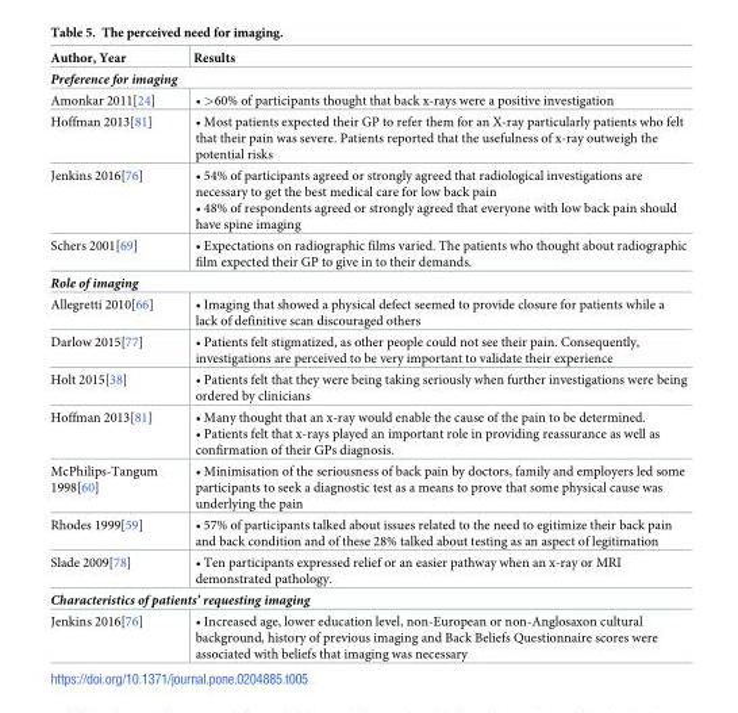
<table><thead><tr><td>Author, Year</td><td>Results</td></tr></thead><tbody><tr><td colspan="2">Preference for imaging</td></tr><tr><td>Amonkar 2011[24]</td><td>• &gt;60% of participants thought that back x-rays were a positive investigation</td></tr><tr><td>Hoffman 2013[81]</td><td>• Most patients expected their GP to refer them for an X-ray particularly patients who felt that their pain was severe. Patients reported that the usefulness of x-ray outweigh the potential risks</td></tr><tr><td>Jenkins 2016[76]</td><td>• 54% of participants agreed or strongly agreed that radiological investigations are necessary to get the best medical care for low back pain • 48% of respondents agreed or strongly agreed that everyone with low back pain should have spine imaging</td></tr><tr><td>Schers 2001[69]</td><td>• Expectations on radiographic films varied. The patients who thought about radiographic film expected their GP to give in to their demands.</td></tr><tr><td colspan="2">Role of imaging</td></tr><tr><td>Allegretti 2010[66]</td><td>• Imaging that showed a physical defect seemed to provide closure for patients while a lack of definitive scan discouraged others</td></tr><tr><td>Darlow 2015[77]</td><td>• Patients felt stigmatized, as other people could not see their pain. Consequently, investigations are perceived to be very important to validate their experience</td></tr><tr><td>Holt 2015[38]</td><td>• Patients felt that they were being taking seriously when further investigations were being ordered by clinicians</td></tr><tr><td>Hoffman 2013[81]</td><td>• Many thought that an x-ray would enable the cause of the pain to be determined. • Patients felt that x-rays played an important role in providing reassurance as well as confirmation of their GPs diagnosis.</td></tr><tr><td>McPhilips-Tangum 1998[60]</td><td>• Minimisation of the seriousness of back pain by doctors, family and employers led some participants to seek a diagnostic test as a means to prove that some physical cause was underlying the pain</td></tr><tr><td>Rhodes 1999[59]</td><td>• 57% of participants talked about issues related to the need to egitimize their back pain and back condition and of these 28% talked about testing as an aspect of legitimation</td></tr><tr><td>Slade 2009[78]</td><td>• Ten participants expressed relief or an easier pathway when an x-ray or MRI demonstrated pathology.</td></tr><tr><td colspan="2">Characteristics of patients’ requesting imaging</td></tr><tr><td>Jenkins 2016[76]</td><td>• Increased age, lower education level, non-European or non-Anglosaxon cultural background, history of previous imaging and Back Beliefs Questionnaire scores were associated with beliefs that imaging was necessary</td></tr></tbody></table>